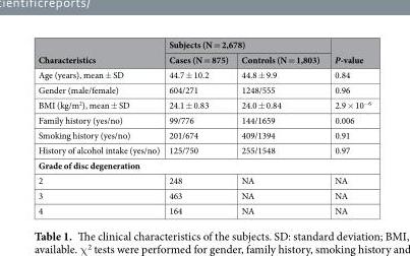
<table><thead><tr><td rowspan="2">Characteristics</td><td colspan="2">Subjects (N = 2,678)</td><td rowspan="2">P-value</td></tr><tr><td>Cases (N = 875)</td><td>Controls (N = 1,803)</td></tr></thead><tbody><tr><td>Age (years), mean ± SD</td><td>44.7 ± 10.2</td><td>44.8 ± 9.9</td><td>0.84</td></tr><tr><td>Gender (male/female)</td><td>604/271</td><td>1248/555</td><td>0.96</td></tr><tr><td>BMI (kg/m<sup>2</sup>), mean ± SD</td><td>24.1 ± 0.83</td><td>24.0 ± 0.84</td><td>2.9 × 10<sup>−6</sup></td></tr><tr><td>Family history (yes/no)</td><td>99/776</td><td>144/1659</td><td>0.006</td></tr><tr><td>Smoking history (yes/no)</td><td>201/674</td><td>409/1394</td><td>0.91</td></tr><tr><td>History of alcohol intake (yes/no)</td><td>125/750</td><td>255/1548</td><td>0.97</td></tr><tr><td colspan="4">Grade of disc degeneration</td></tr><tr><td>2</td><td>248</td><td>NA</td><td>NA</td></tr><tr><td>3</td><td>463</td><td>NA</td><td>NA</td></tr><tr><td>4</td><td>164</td><td>NA</td><td>NA</td></tr></tbody></table>